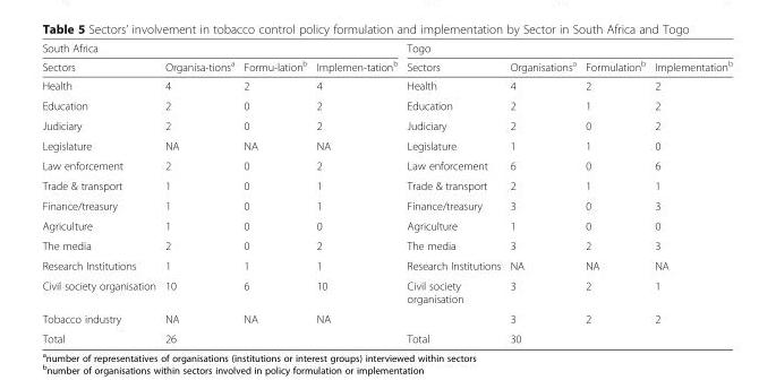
<table><thead><tr><td colspan="4">South Africa</td><td colspan="4">Togo</td></tr><tr><td>Sectors</td><td>Organisa-tions<sup>a</sup></td><td>Formu-lation<sup>b</sup></td><td>Implemen-tation<sup>b</sup></td><td>Sectors</td><td>Organisations<sup>a</sup></td><td>Formulation<sup>b</sup></td><td>Implementation<sup>b</sup></td></tr></thead><tbody><tr><td>Health</td><td>4</td><td>2</td><td>4</td><td>Health</td><td>4</td><td>2</td><td>2</td></tr><tr><td>Education</td><td>2</td><td>0</td><td>2</td><td>Education</td><td>2</td><td>1</td><td>2</td></tr><tr><td>Judiciary</td><td>2</td><td>0</td><td>2</td><td>Judiciary</td><td>2</td><td>0</td><td>2</td></tr><tr><td>Legislature</td><td>NA</td><td>NA</td><td>NA</td><td>Legislature</td><td>1</td><td>1</td><td>0</td></tr><tr><td>Law enforcement</td><td>2</td><td>0</td><td>2</td><td>Law enforcement</td><td>6</td><td>0</td><td>6</td></tr><tr><td>Trade &amp; transport</td><td>1</td><td>0</td><td>1</td><td>Trade &amp; transport</td><td>2</td><td>1</td><td>1</td></tr><tr><td>Finance/treasury</td><td>1</td><td>0</td><td>1</td><td>Finance/treasury</td><td>3</td><td>0</td><td>3</td></tr><tr><td>Agriculture</td><td>1</td><td>0</td><td>0</td><td>Agriculture</td><td>1</td><td>0</td><td>0</td></tr><tr><td>The media</td><td>2</td><td>0</td><td>2</td><td>The media</td><td>3</td><td>2</td><td>3</td></tr><tr><td>Research Institutions</td><td>1</td><td>1</td><td>1</td><td>Research Institutions</td><td>NA</td><td>NA</td><td>NA</td></tr><tr><td>Civil society organisation</td><td>10</td><td>6</td><td>10</td><td>Civil society organisation</td><td>3</td><td>2</td><td>1</td></tr><tr><td>Tobacco industry</td><td>NA</td><td>NA</td><td>NA</td><td></td><td>3</td><td>2</td><td>2</td></tr><tr><td>Total</td><td>26</td><td></td><td></td><td>Total</td><td>30</td><td></td><td></td></tr></tbody></table>